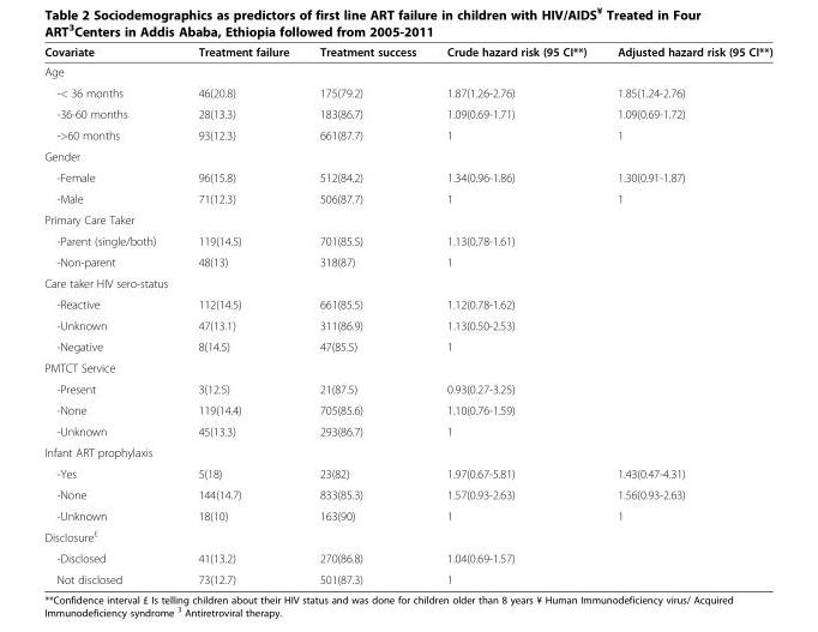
<table><thead><tr><td>Covariate</td><td>Treatment failure</td><td>Treatment success</td><td>Crude hazard risk (95 CI**)</td><td>Adjusted hazard risk (95 CI**)</td></tr></thead><tbody><tr><td colspan="5">Age</td></tr><tr><td>-&lt; 36 months</td><td>46(20.8)</td><td>175(79.2)</td><td>1.87(1.26-2.76)</td><td>1.85(1.24-2.76)</td></tr><tr><td>-36-60 months</td><td>28(13.3)</td><td>183(86.7)</td><td>1.09(0.69-1.71)</td><td>1.09(0.69-1.72)</td></tr><tr><td>-&gt;60 months</td><td>93(12.3)</td><td>661(87.7)</td><td>1</td><td>1</td></tr><tr><td colspan="5">Gender</td></tr><tr><td>-Female</td><td>96(15.8)</td><td>512(84.2)</td><td>1.34(0.96-1.86)</td><td>1.30(0.91-1.87)</td></tr><tr><td>-Male</td><td>71(12.3)</td><td>506(87.7)</td><td>1</td><td>1</td></tr><tr><td colspan="5">Primary Care Taker</td></tr><tr><td>-Parent (single/both)</td><td>119(14.5)</td><td>701(85.5)</td><td>1.13(0.78-1.61)</td><td></td></tr><tr><td>-Non-parent</td><td>48(13)</td><td>318(87)</td><td>1</td><td></td></tr><tr><td colspan="5">Care taker HIV sero-status</td></tr><tr><td>-Reactive</td><td>112(14.5)</td><td>661(85.5)</td><td>1.12(0.78-1.62)</td><td></td></tr><tr><td>-Unknown</td><td>47(13.1)</td><td>311(86.9)</td><td>1.13(0.50-2.53)</td><td></td></tr><tr><td>-Negative</td><td>8(14.5)</td><td>47(85.5)</td><td>1</td><td></td></tr><tr><td colspan="5">PMTCT Service</td></tr><tr><td>-Present</td><td>3(12.5)</td><td>21(87.5)</td><td>0.93(0.27-3.25)</td><td></td></tr><tr><td>-None</td><td>119(14.4)</td><td>705(85.6)</td><td>1.10(0.76-1.59)</td><td></td></tr><tr><td>-Unknown</td><td>45(13.3)</td><td>293(86.7)</td><td>1</td><td></td></tr><tr><td colspan="5">Infant ART prophylaxis</td></tr><tr><td>-Yes</td><td>5(18)</td><td>23(82)</td><td>1.97(0.67-5.81)</td><td>1.43(0.47-4.31)</td></tr><tr><td>-None</td><td>144(14.7)</td><td>833(85.3)</td><td>1.57(0.93-2.63)</td><td>1.56(0.93-2.63)</td></tr><tr><td>-Unknown</td><td>18(10)</td><td>163(90)</td><td>1</td><td>1</td></tr><tr><td colspan="5">Disclosure<sup>£</sup></td></tr><tr><td>-Disclosed</td><td>41(13.2)</td><td>270(86.8)</td><td>1.04(0.69-1.57)</td><td></td></tr><tr><td>Not disclosed</td><td>73(12.7)</td><td>501(87.3)</td><td>1</td><td></td></tr></tbody></table>